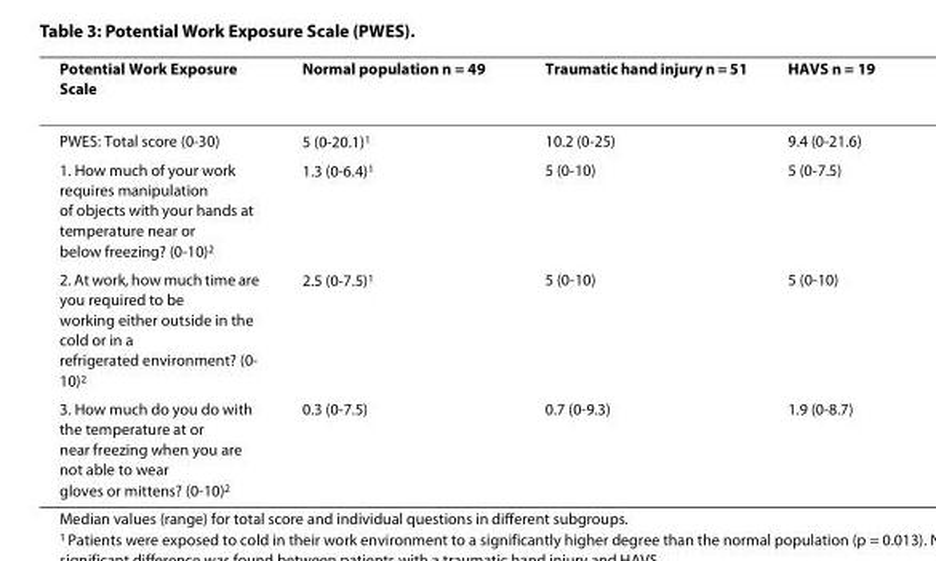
<table><thead><tr><td>Potential Work Exposure Scale</td><td>Normal population n = 49</td><td>Traumatic hand injury n = 51</td><td>HAVS n = 19</td></tr></thead><tbody><tr><td>PWES: Total score (0-30)</td><td>5 (0-20.1)<sup>1</sup></td><td>10.2 (0-25)</td><td>9.4 (0-21.6)</td></tr><tr><td>1. How much of your work requires manipulation of objects with your hands at temperature near or below freezing? (0-10)<sup>2</sup></td><td>1.3 (0-6.4)<sup>1</sup></td><td>5 (0-10)</td><td>5 (0-7.5)</td></tr><tr><td>2. At work, how much time are you required to be working either outside in the cold or in a refrigerated environment? (0- 10)<sup>2</sup></td><td>2.5 (0-7.5)<sup>1</sup></td><td>5 (0-10)</td><td>5 (0-10)</td></tr><tr><td>3. How much do you do with the temperature at or near freezing when you are not able to wear gloves or mittens? (0-10)<sup>2</sup></td><td>0.3 (0-7.5)</td><td>0.7 (0-9.3)</td><td>1.9 (0-8.7)</td></tr></tbody></table>